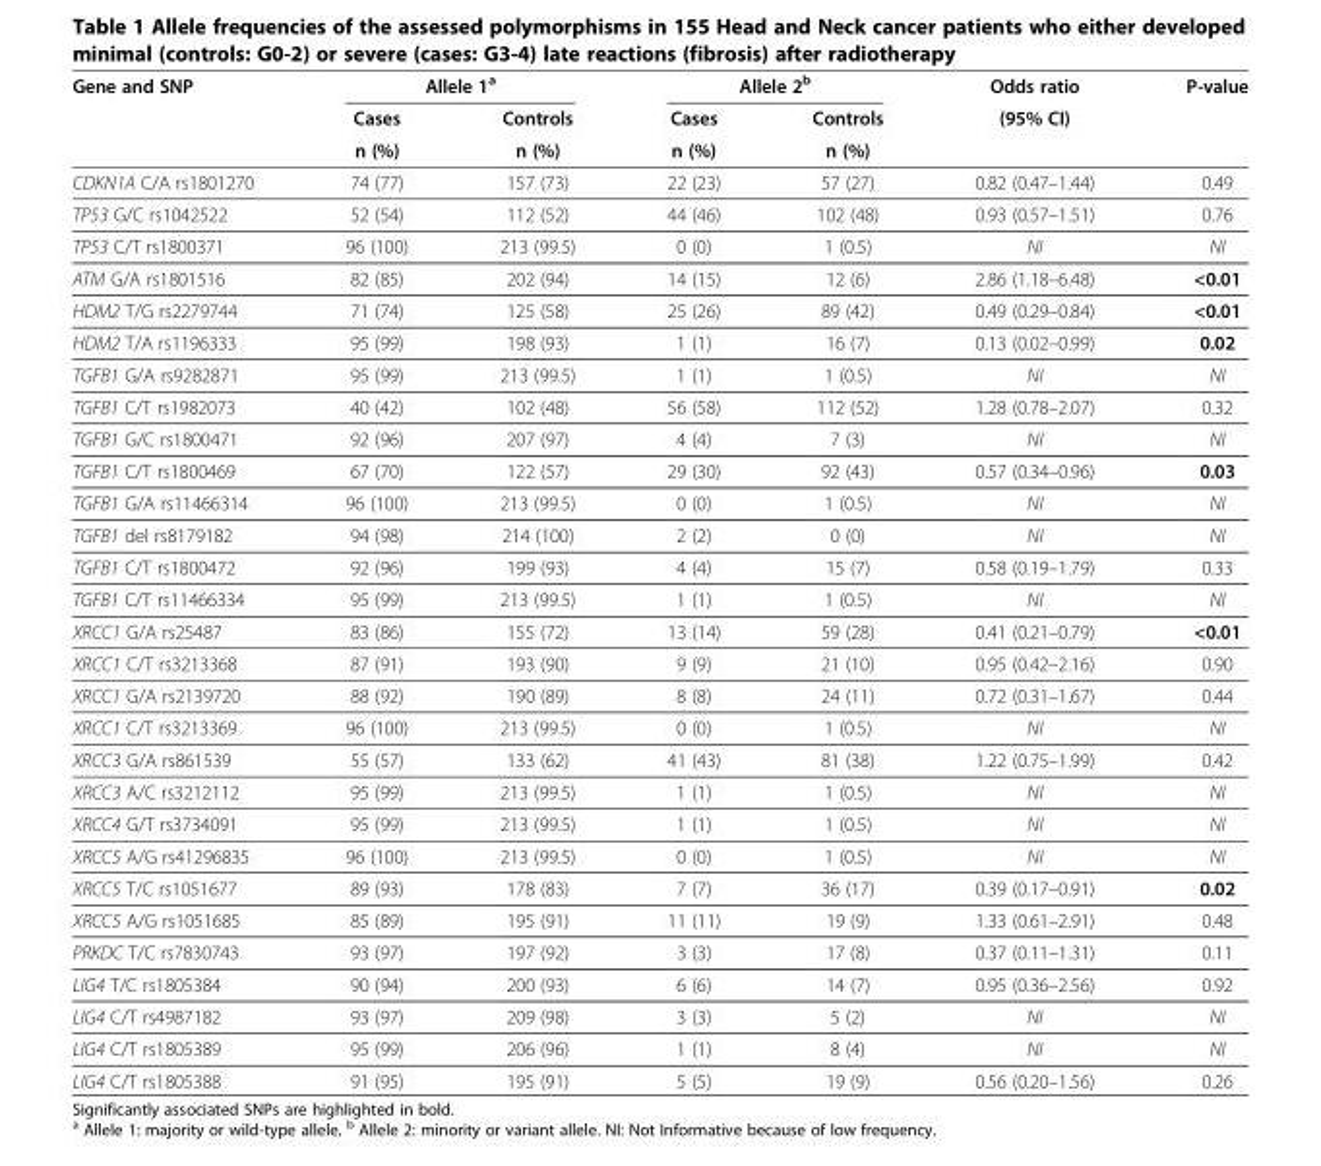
<table><thead><tr><td rowspan="3">Gene and SNP</td><td colspan="2">Allele 1a</td><td colspan="2">Allele 2b</td><td rowspan="3">Odds ratio (95% CI)</td><td rowspan="3">P-value</td></tr><tr><td rowspan="2">Cases n (%)</td><td rowspan="2">Controls n (%)</td><td rowspan="2">Cases n (%)</td><td rowspan="2">Controls n (%)</td></tr><tr></tr></thead><tbody><tr><td>CDKN1A C/A rs1801270</td><td>74 (77)</td><td>157 (73)</td><td>22 (23)</td><td>57 (27)</td><td>0.82 (0.47–1.44)</td><td>0.49</td></tr><tr><td>TP53 G/C rs1042522</td><td>52 (54)</td><td>112 (52)</td><td>44 (46)</td><td>102 (48)</td><td>0.93 (0.57–1.51)</td><td>0.76</td></tr><tr><td>TP53 C/T rs1800371</td><td>96 (100)</td><td>213 (99.5)</td><td>0 (0)</td><td>1 (0.5)</td><td>NI</td><td>NI</td></tr><tr><td>ATM G/A rs1801516</td><td>82 (85)</td><td>202 (94)</td><td>14 (15)</td><td>12 (6)</td><td>2.86 (1.18–6.48)</td><td>&lt;0.01</td></tr><tr><td>HDM2 T/G rs2279744</td><td>71 (74)</td><td>125 (58)</td><td>25 (26)</td><td>89 (42)</td><td>0.49 (0.29–0.84)</td><td>&lt;0.01</td></tr><tr><td>HDM2 T/A rs1196333</td><td>95 (99)</td><td>198 (93)</td><td>1 (1)</td><td>16 (7)</td><td>0.13 (0.02–0.99)</td><td>0.02</td></tr><tr><td>TGFB1 G/A rs9282871</td><td>95 (99)</td><td>213 (99.5)</td><td>1 (1)</td><td>1 (0.5)</td><td>NI</td><td>NI</td></tr><tr><td>TGFB1 C/T rs1982073</td><td>40 (42)</td><td>102 (48)</td><td>56 (58)</td><td>112 (52)</td><td>1.28 (0.78–2.07)</td><td>0.32</td></tr><tr><td>TGFB1 G/C rs1800471</td><td>92 (96)</td><td>207 (97)</td><td>4 (4)</td><td>7 (3)</td><td>NI</td><td>NI</td></tr><tr><td>TGFB1 C/T rs1800469</td><td>67 (70)</td><td>122 (57)</td><td>29 (30)</td><td>92 (43)</td><td>0.57 (0.34–0.96)</td><td>0.03</td></tr><tr><td>TGFB1 G/A rs11466314</td><td>96 (100)</td><td>213 (99.5)</td><td>0 (0)</td><td>1 (0.5)</td><td>NI</td><td>NI</td></tr><tr><td>TGFB1 del rs8179182</td><td>94 (98)</td><td>214 (100)</td><td>2 (2)</td><td>0 (0)</td><td>NI</td><td>NI</td></tr><tr><td>TGFB1 C/T rs1800472</td><td>92 (96)</td><td>199 (93)</td><td>4 (4)</td><td>15 (7)</td><td>0.58 (0.19–1.79)</td><td>0.33</td></tr><tr><td>TGFB1 C/T rs11466334</td><td>95 (99)</td><td>213 (99.5)</td><td>1 (1)</td><td>1 (0.5)</td><td>NI</td><td>NI</td></tr><tr><td>XRCC1 G/A rs25487</td><td>83 (86)</td><td>155 (72)</td><td>13 (14)</td><td>59 (28)</td><td>0.41 (0.21–0.79)</td><td>&lt;0.01</td></tr><tr><td>XRCC1 C/T rs3213368</td><td>87 (91)</td><td>193 (90)</td><td>9 (9)</td><td>21 (10)</td><td>0.95 (0.42–2.16)</td><td>0.90</td></tr><tr><td>XRCC1 G/A rs2139720</td><td>88 (92)</td><td>190 (89)</td><td>8 (8)</td><td>24 (11)</td><td>0.72 (0.31–1.67)</td><td>0.44</td></tr><tr><td>XRCC1 C/T rs3213369</td><td>96 (100)</td><td>213 (99.5)</td><td>0 (0)</td><td>1 (0.5)</td><td>NI</td><td>NI</td></tr><tr><td>XRCC3 G/A rs861539</td><td>55 (57)</td><td>133 (62)</td><td>41 (43)</td><td>81 (38)</td><td>1.22 (0.75–1.99)</td><td>0.42</td></tr><tr><td>XRCC3 A/C rs3212112</td><td>95 (99)</td><td>213 (99.5)</td><td>1 (1)</td><td>1 (0.5)</td><td>NI</td><td>NI</td></tr><tr><td>XRCC4 G/T rs3734091</td><td>95 (99)</td><td>213 (99.5)</td><td>1 (1)</td><td>1 (0.5)</td><td>NI</td><td>NI</td></tr><tr><td>XRCC5 A/G rs41296835</td><td>96 (100)</td><td>213 (99.5)</td><td>0 (0)</td><td>1 (0.5)</td><td>NI</td><td>NI</td></tr><tr><td>XRCC5 T/C rs1051677</td><td>89 (93)</td><td>178 (83)</td><td>7 (7)</td><td>36 (17)</td><td>0.39 (0.17–0.91)</td><td>0.02</td></tr><tr><td>XRCC5 A/G rs1051685</td><td>85 (89)</td><td>195 (91)</td><td>11 (11)</td><td>19 (9)</td><td>1.33 (0.61–2.91)</td><td>0.48</td></tr><tr><td>PRKDC T/C rs7830743</td><td>93 (97)</td><td>197 (92)</td><td>3 (3)</td><td>17 (8)</td><td>0.37 (0.11–1.31)</td><td>0.11</td></tr><tr><td>LIG4 T/C rs1805384</td><td>90 (94)</td><td>200 (93)</td><td>6 (6)</td><td>14 (7)</td><td>0.95 (0.36–2.56)</td><td>0.92</td></tr><tr><td>LIG4 C/T rs4987182</td><td>93 (97)</td><td>209 (98)</td><td>3 (3)</td><td>5 (2)</td><td>NI</td><td>NI</td></tr><tr><td>LIG4 C/T rs1805389</td><td>95 (99)</td><td>206 (96)</td><td>1 (1)</td><td>8 (4)</td><td>NI</td><td>NI</td></tr><tr><td>LIG4 C/T rs1805388</td><td>91 (95)</td><td>195 (91)</td><td>5 (5)</td><td>19 (9)</td><td>0.56 (0.20–1.56)</td><td>0.26</td></tr></tbody></table>